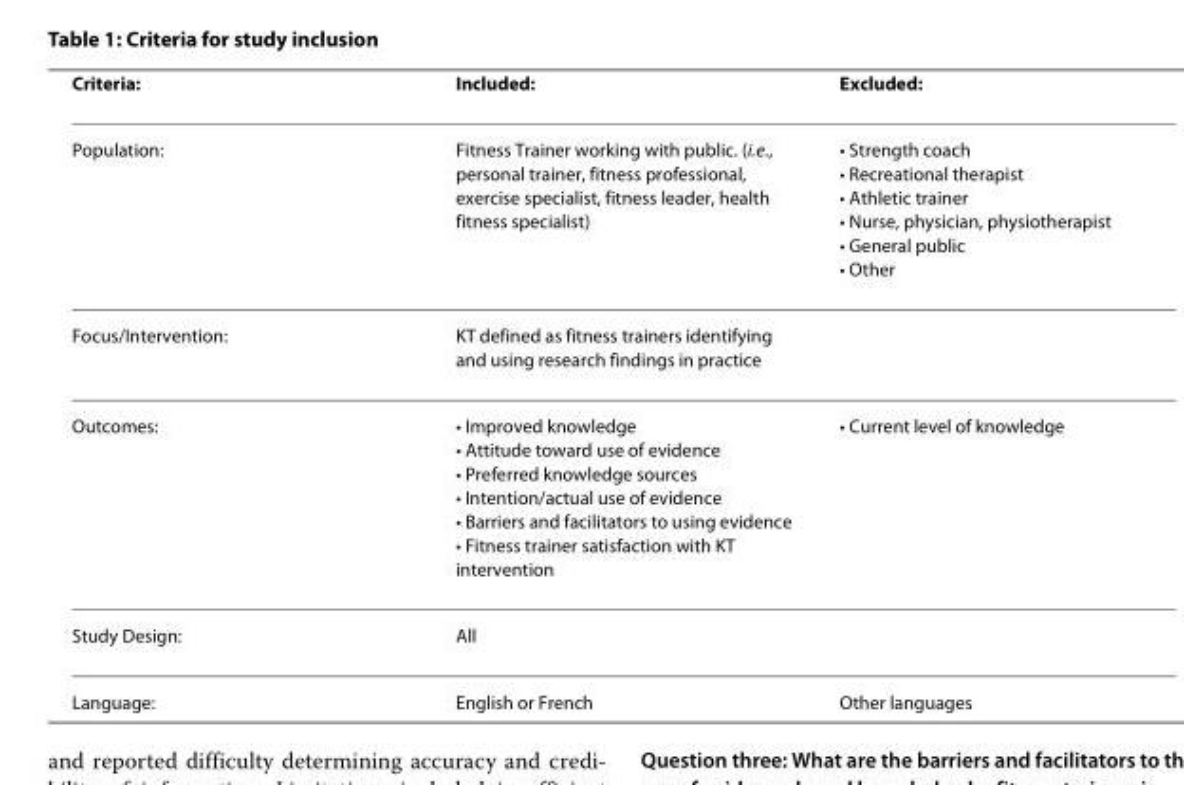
<table><thead><tr><td>Criteria:</td><td>Included:</td><td>Excluded:</td></tr></thead><tbody><tr><td>Population:</td><td>Fitness Trainer working with public. (i.e., personal trainer, fitness professional, exercise specialist, fitness leader, health fitness specialist)</td><td>• Strength coach • Recreational therapist • Athletic trainer • Nurse, physician, physiotherapist • General public • Other</td></tr><tr><td>Focus/Intervention:</td><td>KT defined as fitness trainers identifying and using research findings in practice</td><td></td></tr><tr><td>Outcomes:</td><td>• Improved knowledge • Attitude toward use of evidence • Preferred knowledge sources • Intention/actual use of evidence • Barriers and facilitators to using evidence • Fitness trainer satisfaction with KT intervention</td><td>• Current level of knowledge</td></tr><tr><td>Study Design:</td><td>All</td><td></td></tr><tr><td>Language:</td><td>English or French</td><td>Other languages</td></tr></tbody></table>